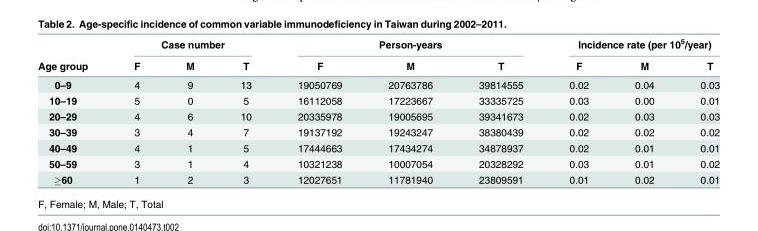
<table><thead><tr><td rowspan="2">Age group</td><td colspan="3">Case number</td><td colspan="3">Person-years</td><td colspan="3">Incidence rate (per 10<sup>5</sup>/year)</td></tr><tr><td>F</td><td>M</td><td>T</td><td>F</td><td>M</td><td>T</td><td>F</td><td>M</td><td>T</td></tr></thead><tbody><tr><td>0–9</td><td>4</td><td>9</td><td>13</td><td>19050769</td><td>20763786</td><td>39814555</td><td>0.02</td><td>0.04</td><td>0.03</td></tr><tr><td>10–19</td><td>5</td><td>0</td><td>5</td><td>16112058</td><td>17223667</td><td>33335725</td><td>0.03</td><td>0.00</td><td>0.01</td></tr><tr><td>20–29</td><td>4</td><td>6</td><td>10</td><td>20335978</td><td>19005695</td><td>39341673</td><td>0.02</td><td>0.03</td><td>0.03</td></tr><tr><td>30–39</td><td>3</td><td>4</td><td>7</td><td>19137192</td><td>19243247</td><td>38380439</td><td>0.02</td><td>0.02</td><td>0.02</td></tr><tr><td>40–49</td><td>4</td><td>1</td><td>5</td><td>17444663</td><td>17434274</td><td>34878937</td><td>0.02</td><td>0.01</td><td>0.01</td></tr><tr><td>50–59</td><td>3</td><td>1</td><td>4</td><td>10321238</td><td>10007054</td><td>20328292</td><td>0.03</td><td>0.01</td><td>0.02</td></tr><tr><td>≥60</td><td>1</td><td>2</td><td>3</td><td>12027651</td><td>11781940</td><td>23809591</td><td>0.01</td><td>0.02</td><td>0.01</td></tr></tbody></table>